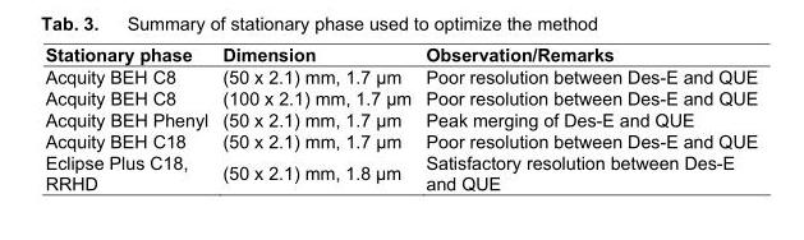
<table><thead><tr><td>Stationary phase</td><td>Dimension</td><td>Observation/Remarks</td></tr></thead><tbody><tr><td>Acquity BEH C8</td><td>(50 x 2.1) mm, 1.7 µm</td><td>Poor resolution between Des-E and QUE</td></tr><tr><td>Acquity BEH C8</td><td>(100 x 2.1) mm, 1.7 µm</td><td>Poor resolution between Des-E and QUE</td></tr><tr><td>Acquity BEH Phenyl</td><td>(50 x 2.1) mm, 1.7 µm</td><td>Peak merging of Des-E and QUE</td></tr><tr><td>Acquity BEH C18</td><td>(50 x 2.1) mm, 1.7 µm</td><td>Poor resolution between Des-E and QUE</td></tr><tr><td>Eclipse Plus C18, RRHD</td><td>(50 x 2.1) mm, 1.8 µm</td><td>Satisfactory resolution between Des-E and QUE</td></tr></tbody></table>